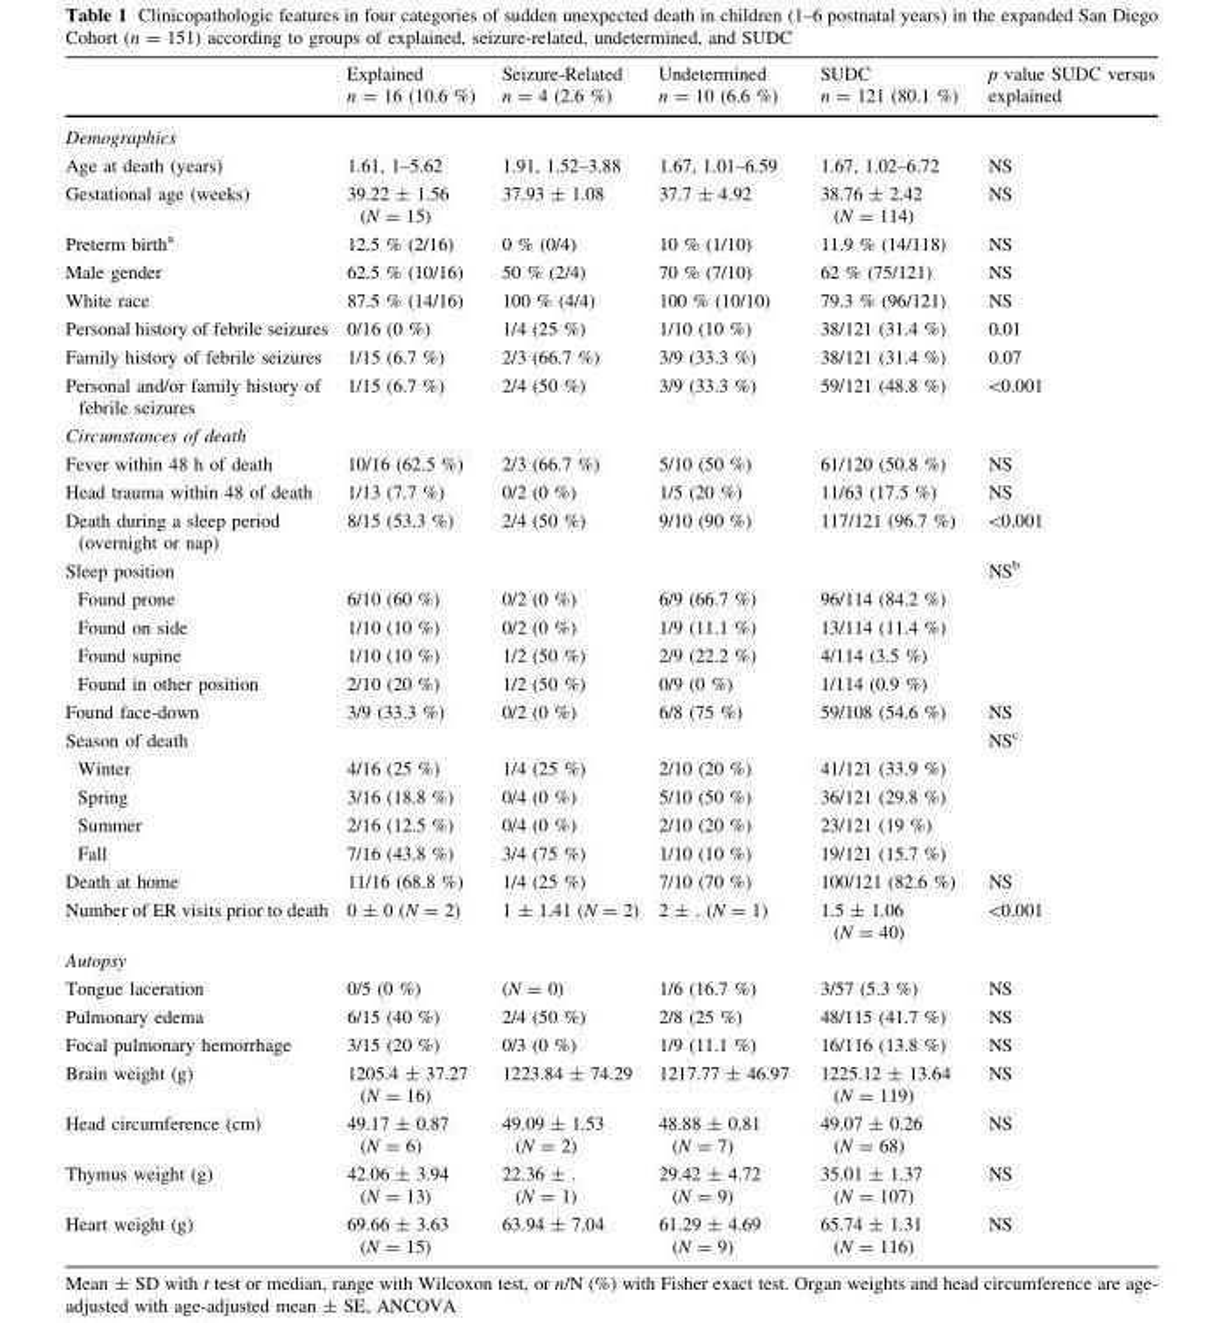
<table><thead><tr><td rowspan="2"></td><td rowspan="2">Explained n = 16 (10.6 %)</td><td rowspan="2">Seizure-Related n = 4 (2.6 %)</td><td rowspan="2">Undetermined n = 10 (6.6 %)</td><td rowspan="2">SUDC n = 121 (80.1 %)</td><td rowspan="2">p value SUDC versus explained</td></tr><tr></tr></thead><tbody><tr><td colspan="6">Demographics</td></tr><tr><td>Age at death (years)</td><td>1.61, 1–5.62</td><td>1.91, 1.52–3.88</td><td>1.67, 1.01–6.59</td><td>1.67, 1.02–6.72</td><td>NS</td></tr><tr><td>Gestational age (weeks)</td><td>39.22 ± 1.56 (N = 15)</td><td>37.93 ± 1.08</td><td>37.7 ± 4.92</td><td>38.76 ± 2.42 (N = 114)</td><td>NS</td></tr><tr><td>Preterm birth<sup>a</sup></td><td>12.5 % (2/16)</td><td>0 % (0/4)</td><td>10 % (1/10)</td><td>11.9 % (14/118)</td><td>NS</td></tr><tr><td>Male gender</td><td>62.5 % (10/16)</td><td>50 % (2/4)</td><td>70 % (7/10)</td><td>62 % (75/121)</td><td>NS</td></tr><tr><td>White race</td><td>87.5 % (14/16)</td><td>100 % (4/4)</td><td>100 % (10/10)</td><td>79.3 % (96/121)</td><td>NS</td></tr><tr><td>Personal history of febrile seizures</td><td>0/16 (0 %)</td><td>1/4 (25 %)</td><td>1/10 (10 %)</td><td>38/121 (31.4 %)</td><td>0.01</td></tr><tr><td>Family history of febrile seizures</td><td>1/15 (6.7 %)</td><td>2/3 (66.7 %)</td><td>3/9 (33.3 %)</td><td>38/121 (31.4 %)</td><td>0.07</td></tr><tr><td>Personal and/or family history of febrile seizures</td><td>1/15 (6.7 %)</td><td>2/4 (50 %)</td><td>3/9 (33.3 %)</td><td>59/121 (48.8 %)</td><td>&lt;0.001</td></tr><tr><td colspan="6">Circumstances of death</td></tr><tr><td>Fever within 48 h of death</td><td>10/16 (62.5 %)</td><td>2/3 (66.7 %)</td><td>5/10 (50 %)</td><td>61/120 (50.8 %)</td><td>NS</td></tr><tr><td>Head trauma within 48 of death</td><td>1/13 (7.7 %)</td><td>0/2 (0 %)</td><td>1/5 (20 %)</td><td>11/63 (17.5 %)</td><td>NS</td></tr><tr><td>Death during a sleep period (overnight or nap)</td><td>8/15 (53.3 %)</td><td>2/4 (50 %)</td><td>9/10 (90 %)</td><td>117/121 (96.7 %)</td><td>&lt;0.001</td></tr><tr><td>Sleep position</td><td></td><td></td><td></td><td></td><td>NS<sup>b</sup></td></tr><tr><td>Found prone</td><td>6/10 (60 %)</td><td>0/2 (0 %)</td><td>6/9 (66.7 %)</td><td>96/114 (84.2 %)</td><td></td></tr><tr><td>Found on side</td><td>1/10 (10 %)</td><td>0/2 (0 %)</td><td>1/9 (11.1 %)</td><td>13/114 (11.4 %)</td><td></td></tr><tr><td>Found supine</td><td>1/10 (10 %)</td><td>1/2 (50 %)</td><td>2/9 (22.2 %)</td><td>4/114 (3.5 %)</td><td></td></tr><tr><td>Found in other position</td><td>2/10 (20 %)</td><td>1/2 (50 %)</td><td>0/9 (0 %)</td><td>1/114 (0.9 %)</td><td></td></tr><tr><td>Found face-down</td><td>3/9 (33.3 %)</td><td>0/2 (0 %)</td><td>6/8 (75 %)</td><td>59/108 (54.6 %)</td><td>NS</td></tr><tr><td>Season of death</td><td></td><td></td><td></td><td></td><td>NS<sup>c</sup></td></tr><tr><td>Winter</td><td>4/16 (25 %)</td><td>1/4 (25 %)</td><td>2/10 (20 %)</td><td>41/121 (33.9 %)</td><td></td></tr><tr><td>Spring</td><td>3/16 (18.8 %)</td><td>0/4 (0 %)</td><td>5/10 (50 %)</td><td>36/121 (29.8 %)</td><td></td></tr><tr><td>Summer</td><td>2/16 (12.5 %)</td><td>0/4 (0 %)</td><td>2/10 (20 %)</td><td>23/121 (19 %)</td><td></td></tr><tr><td>Fall</td><td>7/16 (43.8 %)</td><td>3/4 (75 %)</td><td>1/10 (10 %)</td><td>19/121 (15.7 %)</td><td></td></tr><tr><td>Death at home</td><td>11/16 (68.8 %)</td><td>1/4 (25 %)</td><td>7/10 (70 %)</td><td>100/121 (82.6 %)</td><td>NS</td></tr><tr><td>Number of ER visits prior to death</td><td>0 ± 0 (N = 2)</td><td>1 ± 1.41 (N = 2)</td><td>2 ± . (N = 1)</td><td>1.5 ± 1.06 (N = 40)</td><td>&lt;0.001</td></tr><tr><td colspan="6">Autopsy</td></tr><tr><td>Tongue laceration</td><td>0/5 (0 %)</td><td>(N = 0)</td><td>1/6 (16.7 %)</td><td>3/57 (5.3 %)</td><td>NS</td></tr><tr><td>Pulmonary edema</td><td>6/15 (40 %)</td><td>2/4 (50 %)</td><td>2/8 (25 %)</td><td>48/115 (41.7 %)</td><td>NS</td></tr><tr><td>Focal pulmonary hemorrhage</td><td>3/15 (20 %)</td><td>0/3 (0 %)</td><td>1/9 (11.1 %)</td><td>16/116 (13.8 %)</td><td>NS</td></tr><tr><td>Brain weight (g)</td><td>1205.4 ± 37.27 (N = 16)</td><td>1223.84 ± 74.29</td><td>1217.77 ± 46.97</td><td>1225.12 ± 13.64 (N = 119)</td><td>NS</td></tr><tr><td>Head circumference (cm)</td><td>49.17 ± 0.87 (N = 6)</td><td>49.09 ± 1.53 (N = 2)</td><td>48.88 ± 0.81 (N = 7)</td><td>49.07 ± 0.26 (N = 68)</td><td>NS</td></tr><tr><td>Thymus weight (g)</td><td>42.06 ± 3.94 (N = 13)</td><td>22.36 ± . (N = 1)</td><td>29.42 ± 4.72 (N = 9)</td><td>35.01 ± 1.37 (N = 107)</td><td>NS</td></tr><tr><td>Heart weight (g)</td><td>69.66 ± 3.63 (N = 15)</td><td>63.94 ± 7.04</td><td>61.29 ± 4.69 (N = 9)</td><td>65.74 ± 1.31 (N = 116)</td><td>NS</td></tr></tbody></table>